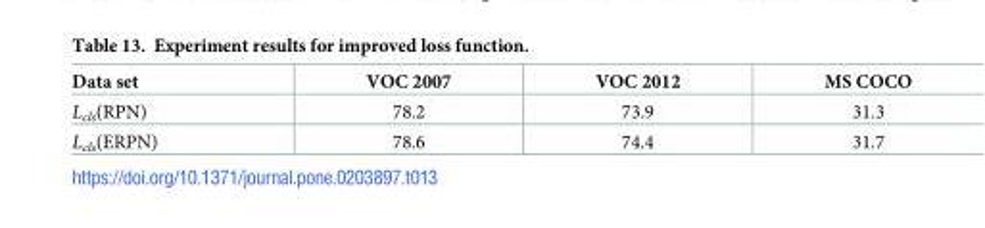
<table><thead><tr><td>Data set</td><td>VOC 2007</td><td>VOC 2012</td><td>MS COCO</td></tr></thead><tbody><tr><td>L<sub>cls</sub>(RPN)</td><td>78.2</td><td>73.9</td><td>31.3</td></tr><tr><td>L<sub>cls</sub>(ERPN)</td><td>78.6</td><td>74.4</td><td>31.7</td></tr></tbody></table>